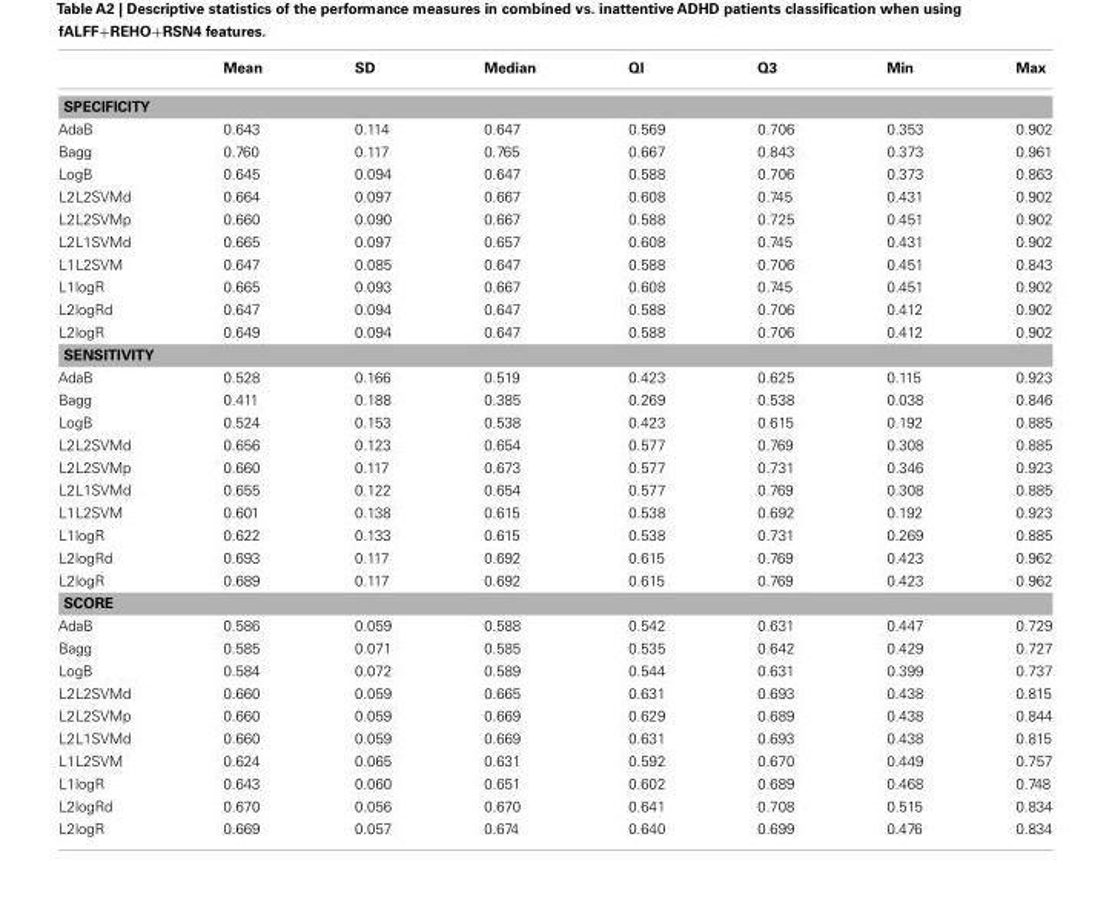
<table><thead><tr><td></td><td>Mean</td><td>SD</td><td>Median</td><td>Ql</td><td>Q3</td><td>Min</td><td>Max</td></tr></thead><tbody><tr><td colspan="8">SPECIFICITY</td></tr><tr><td>AdaB</td><td>0.643</td><td>0.114</td><td>0.647</td><td>0.569</td><td>0.706</td><td>0.353</td><td>0.902</td></tr><tr><td>Bagg</td><td>0.760</td><td>0.117</td><td>0.765</td><td>0.667</td><td>0.843</td><td>0.373</td><td>0.961</td></tr><tr><td>LogB</td><td>0.645</td><td>0.094</td><td>0.647</td><td>0.588</td><td>0.706</td><td>0.373</td><td>0.863</td></tr><tr><td>L2L2SVMd</td><td>0.664</td><td>0.097</td><td>0.667</td><td>0.608</td><td>0.745</td><td>0.431</td><td>0.902</td></tr><tr><td>L2L2SVMp</td><td>0.660</td><td>0.090</td><td>0.667</td><td>0.588</td><td>0.725</td><td>0.451</td><td>0.902</td></tr><tr><td>L2L1SVMd</td><td>0.665</td><td>0.097</td><td>0.657</td><td>0.608</td><td>0.745</td><td>0.431</td><td>0.902</td></tr><tr><td>L1L2SVM</td><td>0.647</td><td>0.085</td><td>0.647</td><td>0.588</td><td>0.706</td><td>0.451</td><td>0.843</td></tr><tr><td>L1logR</td><td>0.665</td><td>0.093</td><td>0.667</td><td>0.608</td><td>0.745</td><td>0.451</td><td>0.902</td></tr><tr><td>L2logRd</td><td>0.647</td><td>0.094</td><td>0.647</td><td>0.588</td><td>0.706</td><td>0.412</td><td>0.902</td></tr><tr><td>L2logR</td><td>0.649</td><td>0.094</td><td>0.647</td><td>0.588</td><td>0.706</td><td>0.412</td><td>0.902</td></tr><tr><td colspan="8">SENSITIVITY</td></tr><tr><td>AdaB</td><td>0.528</td><td>0.166</td><td>0.519</td><td>0.423</td><td>0.625</td><td>0.115</td><td>0.923</td></tr><tr><td>Bagg</td><td>0.411</td><td>0.188</td><td>0.385</td><td>0.269</td><td>0.538</td><td>0.038</td><td>0.846</td></tr><tr><td>LogB</td><td>0.524</td><td>0.153</td><td>0.538</td><td>0.423</td><td>0.615</td><td>0.192</td><td>0.885</td></tr><tr><td>L2L2SVMd</td><td>0.656</td><td>0.123</td><td>0.654</td><td>0.577</td><td>0.769</td><td>0.308</td><td>0.885</td></tr><tr><td>L2L2SVMp</td><td>0.660</td><td>0.117</td><td>0.673</td><td>0.577</td><td>0.731</td><td>0.346</td><td>0.923</td></tr><tr><td>L2L1SVMd</td><td>0.655</td><td>0.122</td><td>0.654</td><td>0.577</td><td>0.769</td><td>0.308</td><td>0.885</td></tr><tr><td>L1L2SVM</td><td>0.601</td><td>0.138</td><td>0.615</td><td>0.538</td><td>0.692</td><td>0.192</td><td>0.923</td></tr><tr><td>L1logR</td><td>0.622</td><td>0.133</td><td>0.615</td><td>0.538</td><td>0.731</td><td>0.269</td><td>0.885</td></tr><tr><td>L2logRd</td><td>0.693</td><td>0.117</td><td>0.692</td><td>0.615</td><td>0.769</td><td>0.423</td><td>0.962</td></tr><tr><td>L2logR</td><td>0.689</td><td>0.117</td><td>0.692</td><td>0.615</td><td>0.769</td><td>0.423</td><td>0.962</td></tr><tr><td colspan="8">SCORE</td></tr><tr><td>AdaB</td><td>0.586</td><td>0.059</td><td>0.588</td><td>0.542</td><td>0.631</td><td>0.447</td><td>0.729</td></tr><tr><td>Bagg</td><td>0.585</td><td>0.071</td><td>0.585</td><td>0.535</td><td>0.642</td><td>0.429</td><td>0.727</td></tr><tr><td>LogB</td><td>0.584</td><td>0.072</td><td>0.589</td><td>0.544</td><td>0.631</td><td>0.399</td><td>0.737</td></tr><tr><td>L2L2SVMd</td><td>0.660</td><td>0.059</td><td>0.665</td><td>0.631</td><td>0.693</td><td>0.438</td><td>0.815</td></tr><tr><td>L2L2SVMp</td><td>0.660</td><td>0.059</td><td>0.669</td><td>0.629</td><td>0.689</td><td>0.438</td><td>0.844</td></tr><tr><td>L2L1SVMd</td><td>0.660</td><td>0.059</td><td>0.669</td><td>0.631</td><td>0.693</td><td>0.438</td><td>0.815</td></tr><tr><td>L1L2SVM</td><td>0.624</td><td>0.065</td><td>0.631</td><td>0.592</td><td>0.670</td><td>0.449</td><td>0.757</td></tr><tr><td>L1logR</td><td>0.643</td><td>0.060</td><td>0.651</td><td>0.602</td><td>0.689</td><td>0.468</td><td>0.748</td></tr><tr><td>L2logRd</td><td>0.670</td><td>0.056</td><td>0.670</td><td>0.641</td><td>0.708</td><td>0.515</td><td>0.834</td></tr><tr><td>L2logR</td><td>0.669</td><td>0.057</td><td>0.674</td><td>0.640</td><td>0.699</td><td>0.476</td><td>0.834</td></tr></tbody></table>